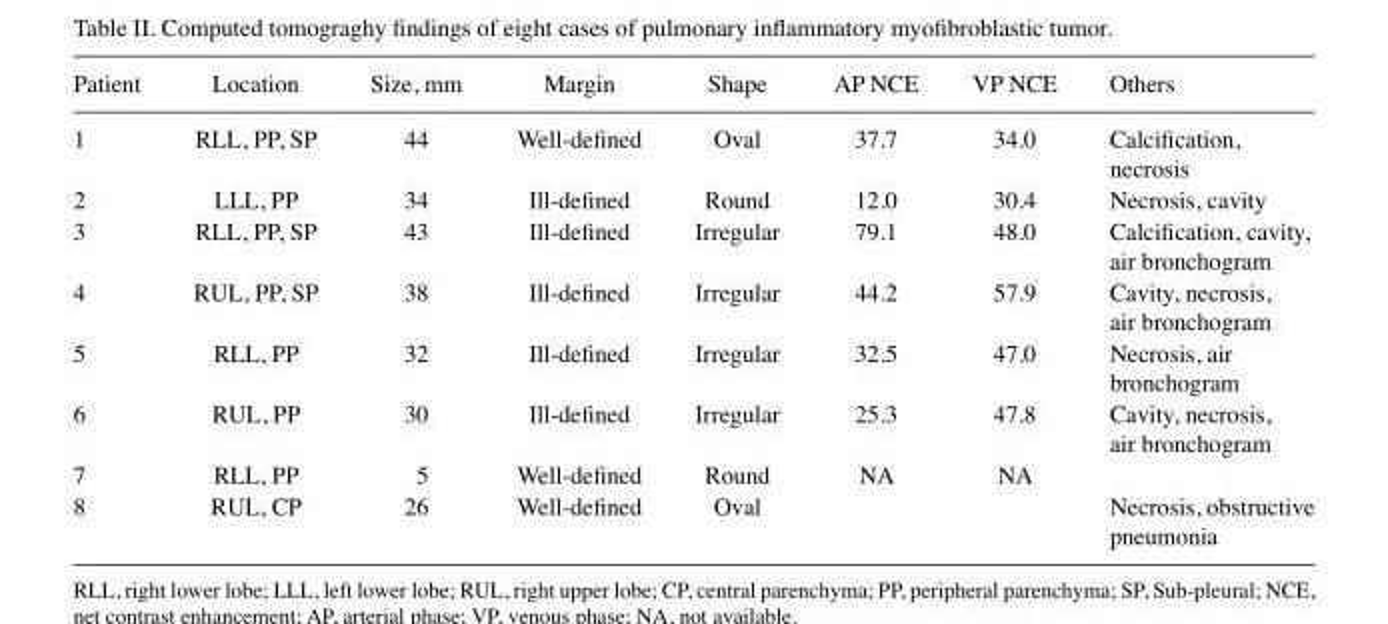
<table><thead><tr><td>Patient</td><td>Location</td><td>Size, mm</td><td>Margin</td><td>Shape</td><td>AP NCE</td><td>VP NCE</td><td>Others</td></tr></thead><tbody><tr><td>1</td><td>RLL, PP, SP</td><td>44</td><td>Well‑defined</td><td>Oval</td><td>37.7</td><td>34.0</td><td>Calcification, necrosis</td></tr><tr><td>2</td><td>LLL, PP</td><td>34</td><td>Ill‑defined</td><td>Round</td><td>12.0</td><td>30.4</td><td>Necrosis, cavity</td></tr><tr><td>3</td><td>RLL, PP, SP</td><td>43</td><td>Ill‑defined</td><td>Irregular</td><td>79.1</td><td>48.0</td><td>Calcification, cavity, air bronchogram</td></tr><tr><td>4</td><td>RUL, PP, SP</td><td>38</td><td>Ill‑defined</td><td>Irregular</td><td>44.2</td><td>57.9</td><td>Cavity, necrosis, air bronchogram</td></tr><tr><td>5</td><td>RLL, PP</td><td>32</td><td>Ill‑defined</td><td>Irregular</td><td>32.5</td><td>47.0</td><td>Necrosis, air bronchogram</td></tr><tr><td>6</td><td>RUL, PP</td><td>30</td><td>Ill‑defined</td><td>Irregular</td><td>25.3</td><td>47.8</td><td>Cavity, necrosis, air bronchogram</td></tr><tr><td>7</td><td>RLL, PP</td><td>5</td><td>Well‑defined</td><td>Round</td><td>NA</td><td>NA</td><td></td></tr><tr><td>8</td><td>RUL, CP</td><td>26</td><td>Well‑defined</td><td>Oval</td><td></td><td></td><td>Necrosis, obstructive pneumonia</td></tr></tbody></table>